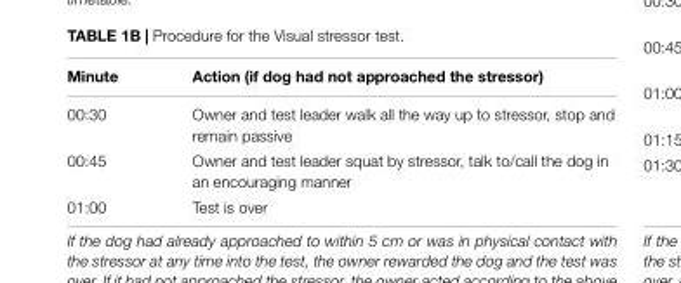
<table><thead><tr><td>Minute</td><td>Action (if dog had not approached the stressor)</td></tr></thead><tbody><tr><td>00:30</td><td>Owner and test leader walk all the way up to stressor, stop and remain passive</td></tr><tr><td>00:45</td><td>Owner and test leader squat by stressor, talk to/call the dog in an encouraging manner</td></tr><tr><td>01:00</td><td>Test is over</td></tr></tbody></table>